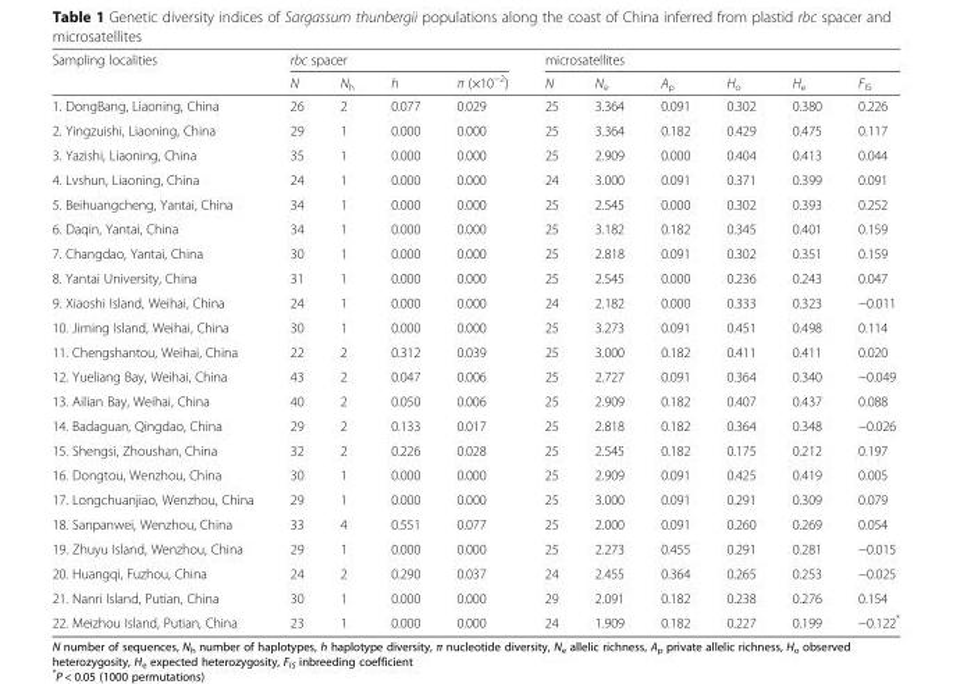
<table><thead><tr><td rowspan="2">Sampling localities</td><td colspan="4">rbc spacer</td><td colspan="6">microsatellites</td></tr><tr><td>N</td><td>N<sub>h</sub></td><td>h</td><td>π (×10<sup>−2</sup>)</td><td>N</td><td>N<sub>e</sub></td><td>A<sub>p</sub></td><td>H<sub>o</sub></td><td>H<sub>e</sub></td><td>F<sub>IS</sub></td></tr></thead><tbody><tr><td>1. DongBang, Liaoning, China</td><td>26</td><td>2</td><td>0.077</td><td>0.029</td><td>25</td><td>3.364</td><td>0.091</td><td>0.302</td><td>0.380</td><td>0.226</td></tr><tr><td>2. Yingzuishi, Liaoning, China</td><td>29</td><td>1</td><td>0.000</td><td>0.000</td><td>25</td><td>3.364</td><td>0.182</td><td>0.429</td><td>0.475</td><td>0.117</td></tr><tr><td>3. Yazishi, Liaoning, China</td><td>35</td><td>1</td><td>0.000</td><td>0.000</td><td>25</td><td>2.909</td><td>0.000</td><td>0.404</td><td>0.413</td><td>0.044</td></tr><tr><td>4. Lvshun, Liaoning, China</td><td>24</td><td>1</td><td>0.000</td><td>0.000</td><td>24</td><td>3.000</td><td>0.091</td><td>0.371</td><td>0.399</td><td>0.091</td></tr><tr><td>5. Beihuangcheng, Yantai, China</td><td>34</td><td>1</td><td>0.000</td><td>0.000</td><td>25</td><td>2.545</td><td>0.000</td><td>0.302</td><td>0.393</td><td>0.252</td></tr><tr><td>6. Daqin, Yantai, China</td><td>34</td><td>1</td><td>0.000</td><td>0.000</td><td>25</td><td>3.182</td><td>0.182</td><td>0.345</td><td>0.401</td><td>0.159</td></tr><tr><td>7. Changdao, Yantai, China</td><td>30</td><td>1</td><td>0.000</td><td>0.000</td><td>25</td><td>2.818</td><td>0.091</td><td>0.302</td><td>0.351</td><td>0.159</td></tr><tr><td>8. Yantai University, China</td><td>31</td><td>1</td><td>0.000</td><td>0.000</td><td>25</td><td>2.545</td><td>0.000</td><td>0.236</td><td>0.243</td><td>0.047</td></tr><tr><td>9. Xiaoshi Island, Weihai, China</td><td>24</td><td>1</td><td>0.000</td><td>0.000</td><td>24</td><td>2.182</td><td>0.000</td><td>0.333</td><td>0.323</td><td>−0.011</td></tr><tr><td>10. Jiming Island, Weihai, China</td><td>30</td><td>1</td><td>0.000</td><td>0.000</td><td>25</td><td>3.273</td><td>0.091</td><td>0.451</td><td>0.498</td><td>0.114</td></tr><tr><td>11. Chengshantou, Weihai, China</td><td>22</td><td>2</td><td>0.312</td><td>0.039</td><td>25</td><td>3.000</td><td>0.182</td><td>0.411</td><td>0.411</td><td>0.020</td></tr><tr><td>12. Yueliang Bay, Weihai, China</td><td>43</td><td>2</td><td>0.047</td><td>0.006</td><td>25</td><td>2.727</td><td>0.091</td><td>0.364</td><td>0.340</td><td>−0.049</td></tr><tr><td>13. Ailian Bay, Weihai, China</td><td>40</td><td>2</td><td>0.050</td><td>0.006</td><td>25</td><td>2.909</td><td>0.182</td><td>0.407</td><td>0.437</td><td>0.088</td></tr><tr><td>14. Badaguan, Qingdao, China</td><td>29</td><td>2</td><td>0.133</td><td>0.017</td><td>25</td><td>2.818</td><td>0.182</td><td>0.364</td><td>0.348</td><td>−0.026</td></tr><tr><td>15. Shengsi, Zhoushan, China</td><td>32</td><td>2</td><td>0.226</td><td>0.028</td><td>25</td><td>2.545</td><td>0.182</td><td>0.175</td><td>0.212</td><td>0.197</td></tr><tr><td>16. Dongtou, Wenzhou, China</td><td>30</td><td>1</td><td>0.000</td><td>0.000</td><td>25</td><td>2.909</td><td>0.091</td><td>0.425</td><td>0.419</td><td>0.005</td></tr><tr><td>17. Longchuanjiao, Wenzhou, China</td><td>29</td><td>1</td><td>0.000</td><td>0.000</td><td>25</td><td>3.000</td><td>0.091</td><td>0.291</td><td>0.309</td><td>0.079</td></tr><tr><td>18. Sanpanwei, Wenzhou, China</td><td>33</td><td>4</td><td>0.551</td><td>0.077</td><td>25</td><td>2.000</td><td>0.091</td><td>0.260</td><td>0.269</td><td>0.054</td></tr><tr><td>19. Zhuyu Island, Wenzhou, China</td><td>29</td><td>1</td><td>0.000</td><td>0.000</td><td>25</td><td>2.273</td><td>0.455</td><td>0.291</td><td>0.281</td><td>−0.015</td></tr><tr><td>20. Huangqi, Fuzhou, China</td><td>24</td><td>2</td><td>0.290</td><td>0.037</td><td>24</td><td>2.455</td><td>0.364</td><td>0.265</td><td>0.253</td><td>−0.025</td></tr><tr><td>21. Nanri Island, Putian, China</td><td>30</td><td>1</td><td>0.000</td><td>0.000</td><td>29</td><td>2.091</td><td>0.182</td><td>0.238</td><td>0.276</td><td>0.154</td></tr><tr><td>22. Meizhou Island, Putian, China</td><td>23</td><td>1</td><td>0.000</td><td>0.000</td><td>24</td><td>1.909</td><td>0.182</td><td>0.227</td><td>0.199</td><td>−0.122*</td></tr></tbody></table>